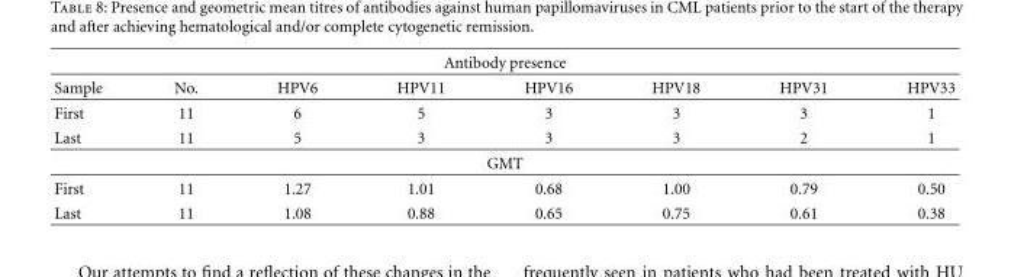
<table><thead><tr><td colspan="8">Antibody presence</td></tr><tr><td>Sample</td><td>No.</td><td>HPV6</td><td>HPV11</td><td>HPV16</td><td>HPV18</td><td>HPV31</td><td>HPV33</td></tr></thead><tbody><tr><td>First</td><td>11</td><td>6</td><td>5</td><td>3</td><td>3</td><td>3</td><td>1</td></tr><tr><td>Last</td><td>11</td><td>5</td><td>3</td><td>3</td><td>3</td><td>2</td><td>1</td></tr><tr><td colspan="8">GMT</td></tr><tr><td>First</td><td>11</td><td>1.27</td><td>1.01</td><td>0.68</td><td>1.00</td><td>0.79</td><td>0.50</td></tr><tr><td>Last</td><td>11</td><td>1.08</td><td>0.88</td><td>0.65</td><td>0.75</td><td>0.61</td><td>0.38</td></tr></tbody></table>